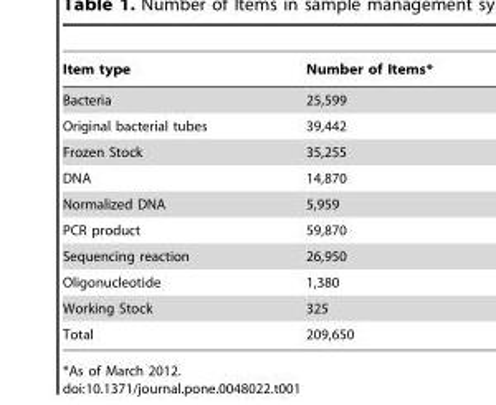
<table><thead><tr><td>Item type</td><td>Number of Items*</td></tr></thead><tbody><tr><td>Bacteria</td><td>25,599</td></tr><tr><td>Original bacterial tubes</td><td>39,442</td></tr><tr><td>Frozen Stock</td><td>35,255</td></tr><tr><td>DNA</td><td>14,870</td></tr><tr><td>Normalized DNA</td><td>5,959</td></tr><tr><td>PCR product</td><td>59,870</td></tr><tr><td>Sequencing reaction</td><td>26,950</td></tr><tr><td>Oligonucleotide</td><td>1,380</td></tr><tr><td>Working Stock</td><td>325</td></tr><tr><td>Total</td><td>209,650</td></tr></tbody></table>